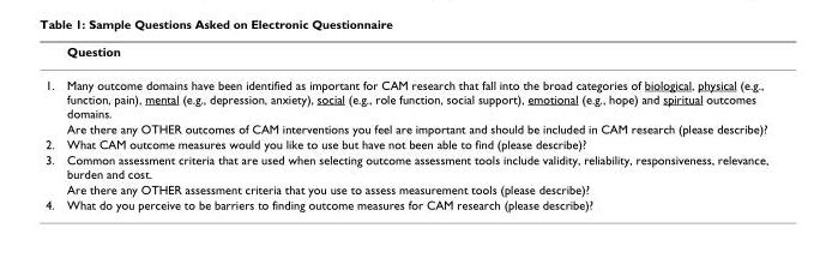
<table><thead><tr><td></td><td>Question</td></tr></thead><tbody><tr><td rowspan="2">1.</td><td>Many outcome domains have been identified as important for CAM research that fall into the broad categories of biological, physical (e.g., function, pain), mental (e.g., depression, anxiety), social (e.g., role function, social support), emotional (e.g., hope) and spiritual outcomes domains.</td></tr><tr><td>Are there any OTHER outcomes of CAM interventions you feel are important and should be included in CAM research (please describe)?</td></tr><tr><td>2.</td><td>What CAM outcome measures would you like to use but have not been able to find (please describe)?</td></tr><tr><td rowspan="2">3.</td><td>Common assessment criteria that are used when selecting outcome assessment tools include validity, reliability, responsiveness, relevance, burden and cost.</td></tr><tr><td>Are there any OTHER assessment criteria that you use to assess measurement tools (please describe)?</td></tr><tr><td>4.</td><td>What do you perceive to be barriers to finding outcome measures for CAM research (please describe)?</td></tr></tbody></table>